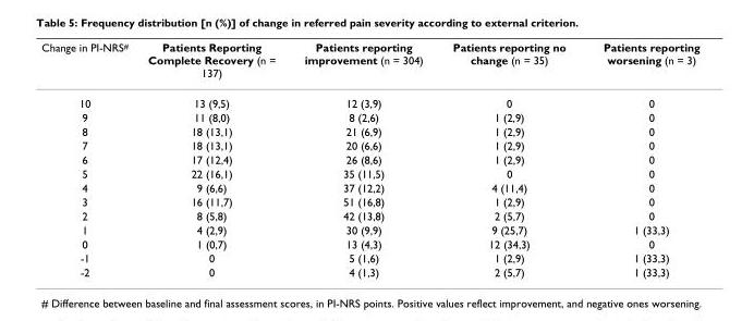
<table><thead><tr><td>Change in PI-NRS<sup>#</sup></td><td>Patients Reporting Complete Recovery (n = 137)</td><td>Patients reporting improvement (n = 304)</td><td>Patients reporting no change (n = 35)</td><td>Patients reporting worsening (n = 3)</td></tr></thead><tbody><tr><td>10</td><td>13 (9,5)</td><td>12 (3,9)</td><td>0</td><td>0</td></tr><tr><td>9</td><td>11 (8,0)</td><td>8 (2,6)</td><td>1 (2,9)</td><td>0</td></tr><tr><td>8</td><td>18 (13,1)</td><td>21 (6,9)</td><td>1 (2,9)</td><td>0</td></tr><tr><td>7</td><td>18 (13,1)</td><td>20 (6,6)</td><td>1 (2,9)</td><td>0</td></tr><tr><td>6</td><td>17 (12,4)</td><td>26 (8,6)</td><td>1 (2,9)</td><td>0</td></tr><tr><td>5</td><td>22 (16,1)</td><td>35 (11,5)</td><td>0</td><td>0</td></tr><tr><td>4</td><td>9 (6,6)</td><td>37 (12,2)</td><td>4 (11,4)</td><td>0</td></tr><tr><td>3</td><td>16 (11,7)</td><td>51 (16,8)</td><td>1 (2,9)</td><td>0</td></tr><tr><td>2</td><td>8 (5,8)</td><td>42 (13,8)</td><td>2 (5,7)</td><td>0</td></tr><tr><td>1</td><td>4 (2,9)</td><td>30 (9,9)</td><td>9 (25,7)</td><td>1 (33,3)</td></tr><tr><td>0</td><td>1 (0,7)</td><td>13 (4,3)</td><td>12 (34,3)</td><td>0</td></tr><tr><td>-1</td><td>0</td><td>5 (1,6)</td><td>1 (2,9)</td><td>1 (33,3)</td></tr><tr><td>-2</td><td>0</td><td>4 (1,3)</td><td>2 (5,7)</td><td>1 (33,3)</td></tr></tbody></table>